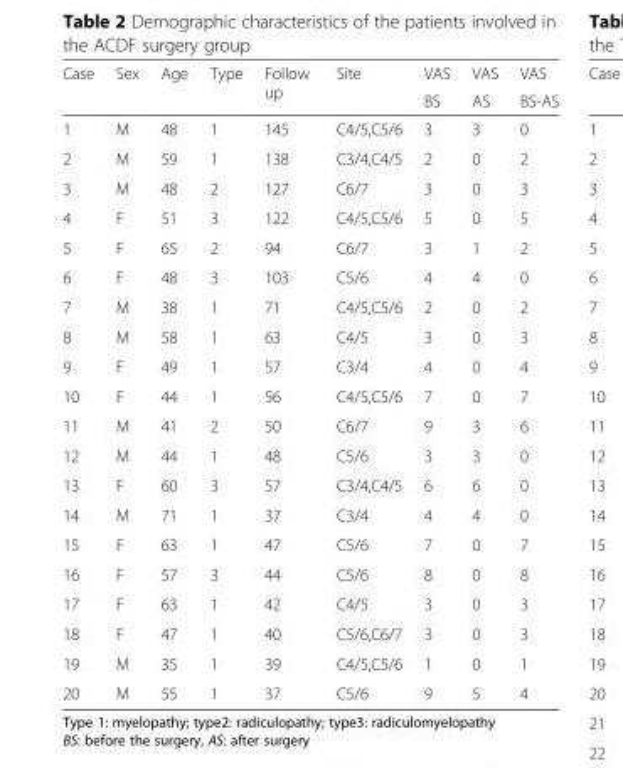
<table><thead><tr><td rowspan="2">Case</td><td rowspan="2">Sex</td><td rowspan="2">Age</td><td rowspan="2">Type</td><td rowspan="2">Follow up</td><td rowspan="2">Site</td><td rowspan="2">VAS BS</td><td rowspan="2">VAS AS</td><td rowspan="2">VAS BS-AS</td></tr><tr></tr></thead><tbody><tr><td>1</td><td>M</td><td>48</td><td>1</td><td>145</td><td>C4/5,C5/6</td><td>3</td><td>3</td><td>0</td></tr><tr><td>2</td><td>M</td><td>59</td><td>1</td><td>138</td><td>C3/4,C4/5</td><td>2</td><td>0</td><td>2</td></tr><tr><td>3</td><td>M</td><td>48</td><td>2</td><td>127</td><td>C6/7</td><td>3</td><td>0</td><td>3</td></tr><tr><td>4</td><td>F</td><td>51</td><td>3</td><td>122</td><td>C4/5,C5/6</td><td>5</td><td>0</td><td>5</td></tr><tr><td>5</td><td>F</td><td>65</td><td>2</td><td>94</td><td>C6/7</td><td>3</td><td>1</td><td>2</td></tr><tr><td>6</td><td>F</td><td>48</td><td>3</td><td>103</td><td>C5/6</td><td>4</td><td>4</td><td>0</td></tr><tr><td>7</td><td>M</td><td>38</td><td>1</td><td>71</td><td>C4/5,C5/6</td><td>2</td><td>0</td><td>2</td></tr><tr><td>8</td><td>M</td><td>58</td><td>1</td><td>63</td><td>C4/5</td><td>3</td><td>0</td><td>3</td></tr><tr><td>9</td><td>F</td><td>49</td><td>1</td><td>57</td><td>C3/4</td><td>4</td><td>0</td><td>4</td></tr><tr><td>10</td><td>F</td><td>44</td><td>1</td><td>56</td><td>C4/5,C5/6</td><td>7</td><td>0</td><td>7</td></tr><tr><td>11</td><td>M</td><td>41</td><td>2</td><td>50</td><td>C6/7</td><td>9</td><td>3</td><td>6</td></tr><tr><td>12</td><td>M</td><td>44</td><td>1</td><td>48</td><td>C5/6</td><td>3</td><td>3</td><td>0</td></tr><tr><td>13</td><td>F</td><td>60</td><td>3</td><td>57</td><td>C3/4,C4/5</td><td>6</td><td>6</td><td>0</td></tr><tr><td>14</td><td>M</td><td>71</td><td>1</td><td>37</td><td>C3/4</td><td>4</td><td>4</td><td>0</td></tr><tr><td>15</td><td>F</td><td>63</td><td>1</td><td>47</td><td>C5/6</td><td>7</td><td>0</td><td>7</td></tr><tr><td>16</td><td>F</td><td>57</td><td>3</td><td>44</td><td>C5/6</td><td>8</td><td>0</td><td>8</td></tr><tr><td>17</td><td>F</td><td>63</td><td>1</td><td>42</td><td>C4/5</td><td>3</td><td>0</td><td>3</td></tr><tr><td>18</td><td>F</td><td>47</td><td>1</td><td>40</td><td>C5/6,C6/7</td><td>3</td><td>0</td><td>3</td></tr><tr><td>19</td><td>M</td><td>35</td><td>1</td><td>39</td><td>C4/5,C5/6</td><td>1</td><td>0</td><td>1</td></tr><tr><td>20</td><td>M</td><td>55</td><td>1</td><td>37</td><td>C5/6</td><td>9</td><td>5</td><td>4</td></tr></tbody></table>